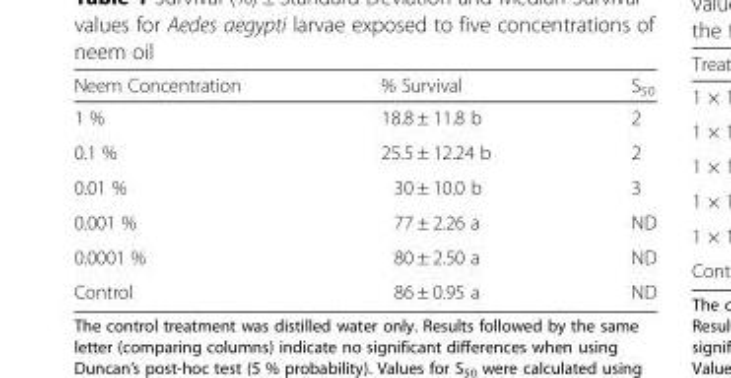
<table><thead><tr><td>Neem Concentration</td><td>% Survival</td><td>S<sub>50</sub></td></tr></thead><tbody><tr><td>1 %</td><td>18.8 ± 11.8 b</td><td>2</td></tr><tr><td>0.1 %</td><td>25.5 ± 12.24 b</td><td>2</td></tr><tr><td>0.01 %</td><td>30 ± 10.0 b</td><td>3</td></tr><tr><td>0.001 %</td><td>77 ± 2.26 a</td><td>ND</td></tr><tr><td>0.0001 %</td><td>80 ± 2.50 a</td><td>ND</td></tr><tr><td>Control</td><td>86 ± 0.95 a</td><td>ND</td></tr></tbody></table>